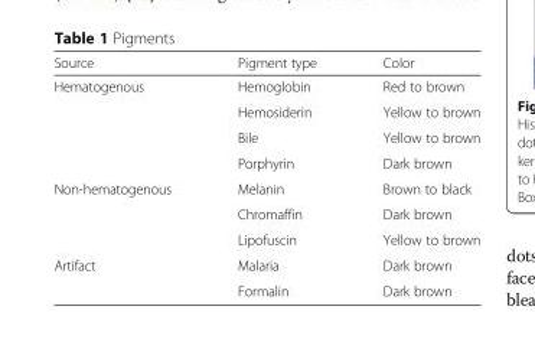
<table><thead><tr><td>Source</td><td>Pigment type</td><td>Color</td></tr></thead><tbody><tr><td rowspan="4">Hematogenous</td><td>Hemoglobin</td><td>Red to brown</td></tr><tr><td>Hemosiderin</td><td>Yellow to brown</td></tr><tr><td>Bile</td><td>Yellow to brown</td></tr><tr><td>Porphyrin</td><td>Dark brown</td></tr><tr><td rowspan="3">Non-hematogenous</td><td>Melanin</td><td>Brown to black</td></tr><tr><td>Chromaffin</td><td>Dark brown</td></tr><tr><td>Lipofuscin</td><td>Yellow to brown</td></tr><tr><td rowspan="2">Artifact</td><td>Malaria</td><td>Dark brown</td></tr><tr><td>Formalin</td><td>Dark brown</td></tr></tbody></table>